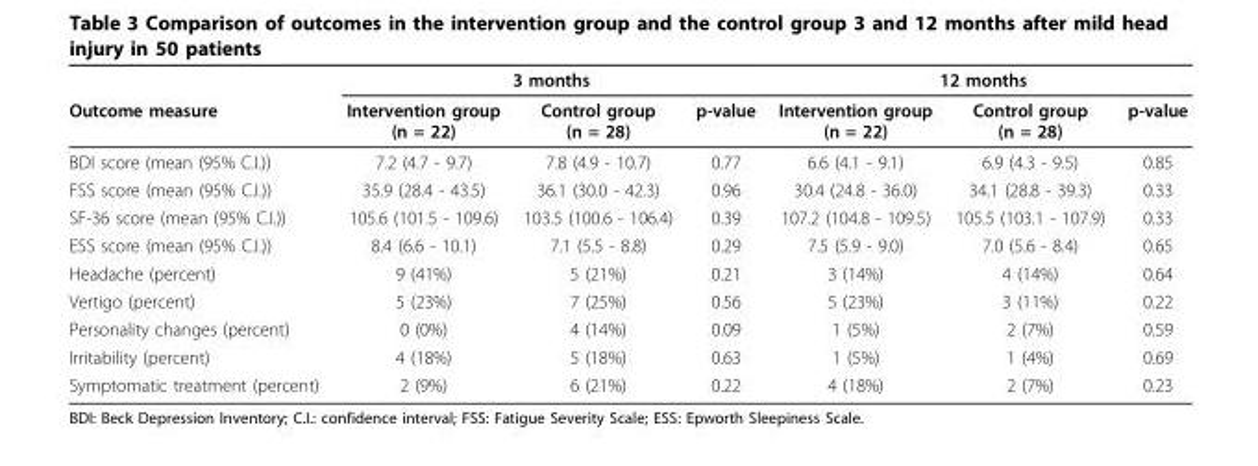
<table><thead><tr><td rowspan="2">Outcome measure</td><td colspan="3">3 months</td><td colspan="3">12 months</td></tr><tr><td>Intervention group (n = 22)</td><td>Control group (n = 28)</td><td>p-value</td><td>Intervention group (n = 22)</td><td>Control group (n = 28)</td><td>p-value</td></tr></thead><tbody><tr><td>BDI score (mean (95% C.I.))</td><td>7.2 (4.7 - 9.7)</td><td>7.8 (4.9 - 10.7)</td><td>0.77</td><td>6.6 (4.1 - 9.1)</td><td>6.9 (4.3 - 9.5)</td><td>0.85</td></tr><tr><td>FSS score (mean (95% C.I.))</td><td>35.9 (28.4 - 43.5)</td><td>36.1 (30.0 - 42.3)</td><td>0.96</td><td>30.4 (24.8 - 36.0)</td><td>34.1 (28.8 - 39.3)</td><td>0.33</td></tr><tr><td>SF-36 score (mean (95% C.I.))</td><td>105.6 (101.5 - 109.6)</td><td>103.5 (100.6 - 106.4)</td><td>0.39</td><td>107.2 (104.8 - 109.5)</td><td>105.5 (103.1 - 107.9)</td><td>0.33</td></tr><tr><td>ESS score (mean (95% C.I.))</td><td>8.4 (6.6 - 10.1)</td><td>7.1 (5.5 - 8.8)</td><td>0.29</td><td>7.5 (5.9 - 9.0)</td><td>7.0 (5.6 - 8.4)</td><td>0.65</td></tr><tr><td>Headache (percent)</td><td>9 (41%)</td><td>5 (21%)</td><td>0.21</td><td>3 (14%)</td><td>4 (14%)</td><td>0.64</td></tr><tr><td>Vertigo (percent)</td><td>5 (23%)</td><td>7 (25%)</td><td>0.56</td><td>5 (23%)</td><td>3 (11%)</td><td>0.22</td></tr><tr><td>Personality changes (percent)</td><td>0 (0%)</td><td>4 (14%)</td><td>0.09</td><td>1 (5%)</td><td>2 (7%)</td><td>0.59</td></tr><tr><td>Irritability (percent)</td><td>4 (18%)</td><td>5 (18%)</td><td>0.63</td><td>1 (5%)</td><td>1 (4%)</td><td>0.69</td></tr><tr><td>Symptomatic treatment (percent)</td><td>2 (9%)</td><td>6 (21%)</td><td>0.22</td><td>4 (18%)</td><td>2 (7%)</td><td>0.23</td></tr></tbody></table>